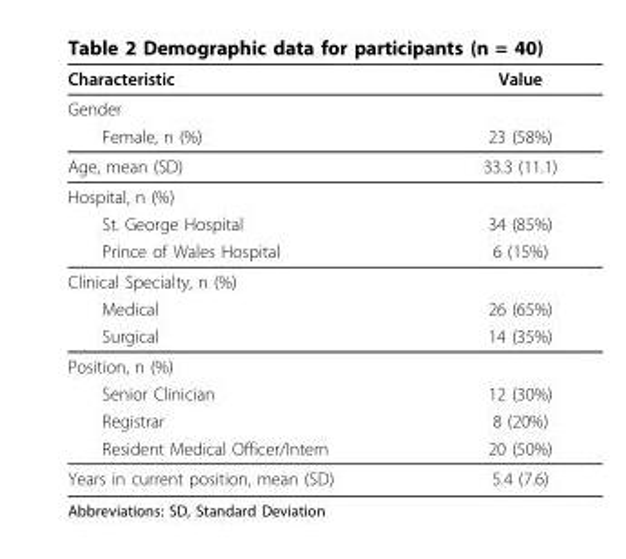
<table><thead><tr><td>Characteristic</td><td>Value</td></tr></thead><tbody><tr><td colspan="2">Gender</td></tr><tr><td>Female, n (%)</td><td>23 (58%)</td></tr><tr><td>Age, mean (SD)</td><td>33.3 (11.1)</td></tr><tr><td colspan="2">Hospital, n (%)</td></tr><tr><td>St. George Hospital</td><td>34 (85%)</td></tr><tr><td>Prince of Wales Hospital</td><td>6 (15%)</td></tr><tr><td colspan="2">Clinical Specialty, n (%)</td></tr><tr><td>Medical</td><td>26 (65%)</td></tr><tr><td>Surgical</td><td>14 (35%)</td></tr><tr><td colspan="2">Position, n (%)</td></tr><tr><td>Senior Clinician</td><td>12 (30%)</td></tr><tr><td>Registrar</td><td>8 (20%)</td></tr><tr><td>Resident Medical Officer/Intern</td><td>20 (50%)</td></tr><tr><td>Years in current position, mean (SD)</td><td>5.4 (7.6)</td></tr></tbody></table>